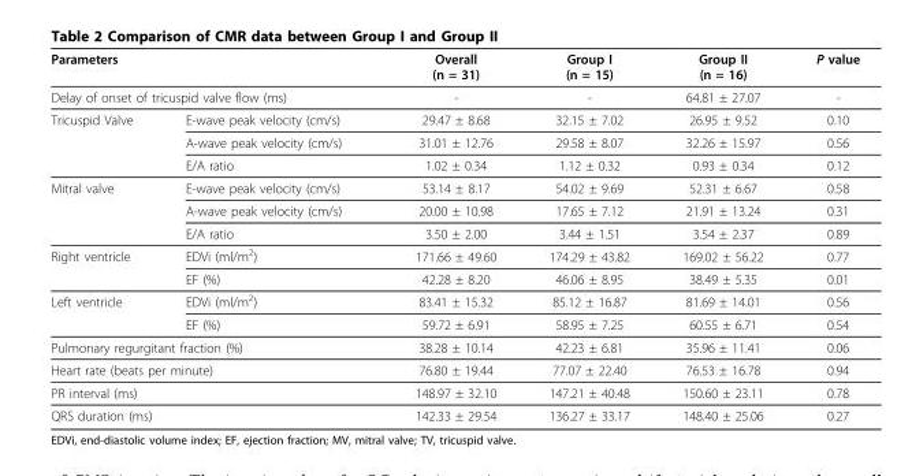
<table><thead><tr><td rowspan="2" colspan="2">Parameters Delay of onset of tricuspid valve flow (ms)</td><td rowspan="3">Overall (n = 31) - 29.47 ± 8.68</td><td rowspan="3">Group I (n = 15) - 32.15 ± 7.02</td><td rowspan="3">Group II (n = 16) 64.81 ± 27.07 26.95 ± 9.52</td><td rowspan="3">P value - 0.10</td></tr><tr></tr><tr><td>Tricuspid Valve</td><td>E-wave peak velocity (cm/s)</td></tr></thead><tbody><tr><td></td><td>A-wave peak velocity (cm/s)</td><td>31.01 ± 12.76</td><td>29.58 ± 8.07</td><td>32.26 ± 15.97</td><td>0.56</td></tr><tr><td></td><td>E/A ratio</td><td>1.02 ± 0.34</td><td>1.12 ± 0.32</td><td>0.93 ± 0.34</td><td>0.12</td></tr><tr><td rowspan="3">Mitral valve</td><td>E-wave peak velocity (cm/s)</td><td>53.14 ± 8.17</td><td>54.02 ± 9.69</td><td>52.31 ± 6.67</td><td>0.58</td></tr><tr><td>A-wave peak velocity (cm/s)</td><td>20.00 ± 10.98</td><td>17.65 ± 7.12</td><td>21.91 ± 13.24</td><td>0.31</td></tr><tr><td>E/A ratio</td><td>3.50 ± 2.00</td><td>3.44 ± 1.51</td><td>3.54 ± 2.37</td><td>0.89</td></tr><tr><td rowspan="2">Right ventricle</td><td>EDVi (ml/m<sup>2</sup>)</td><td>171.66 ± 49.60</td><td>174.29 ± 43.82</td><td>169.02 ± 56.22</td><td>0.77</td></tr><tr><td>EF (%)</td><td>42.28 ± 8.20</td><td>46.06 ± 8.95</td><td>38.49 ± 5.35</td><td>0.01</td></tr><tr><td rowspan="2">Left ventricle</td><td>EDVi (ml/m<sup>2</sup>)</td><td>83.41 ± 15.32</td><td>85.12 ± 16.87</td><td>81.69 ± 14.01</td><td>0.56</td></tr><tr><td>EF (%)</td><td>59.72 ± 6.91</td><td>58.95 ± 7.25</td><td>60.55 ± 6.71</td><td>0.54</td></tr><tr><td colspan="2">Pulmonary regurgitant fraction (%)</td><td>38.28 ± 10.14</td><td>42.23 ± 6.81</td><td>35.96 ± 11.41</td><td>0.06</td></tr><tr><td colspan="2">Heart rate (beats per minute)</td><td>76.80 ± 19.44</td><td>77.07 ± 22.40</td><td>76.53 ± 16.78</td><td>0.94</td></tr><tr><td colspan="2">PR interval (ms)</td><td>148.97 ± 32.10</td><td>147.21 ± 40.48</td><td>150.60 ± 23.11</td><td>0.78</td></tr><tr><td colspan="2">QRS duration (ms)</td><td>142.33 ± 29.54</td><td>136.27 ± 33.17</td><td>148.40 ± 25.06</td><td>0.27</td></tr></tbody></table>